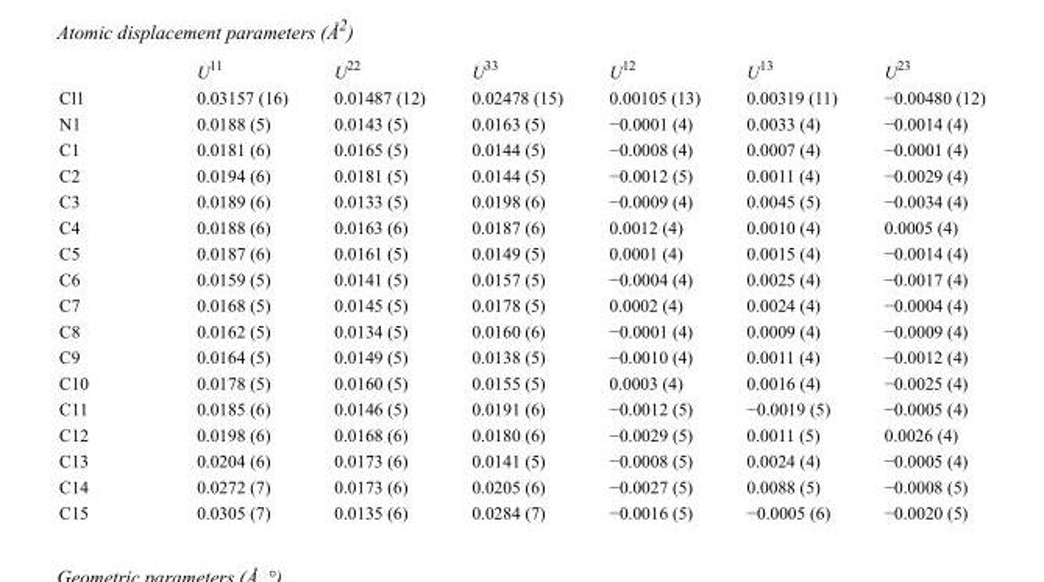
<table><thead><tr><td></td><td>U<sup>11</sup></td><td>U<sup>22</sup></td><td>U<sup>33</sup></td><td>U<sup>12</sup></td><td>U<sup>13</sup></td><td>U<sup>23</sup></td></tr></thead><tbody><tr><td>Cl1</td><td>0.03157 (16)</td><td>0.01487 (12)</td><td>0.02478 (15)</td><td>0.00105 (13)</td><td>0.00319 (11)</td><td>−0.00480 (12)</td></tr><tr><td>N1</td><td>0.0188 (5)</td><td>0.0143 (5)</td><td>0.0163 (5)</td><td>−0.0001 (4)</td><td>0.0033 (4)</td><td>−0.0014 (4)</td></tr><tr><td>C1</td><td>0.0181 (6)</td><td>0.0165 (5)</td><td>0.0144 (5)</td><td>−0.0008 (4)</td><td>0.0007 (4)</td><td>−0.0001 (4)</td></tr><tr><td>C2</td><td>0.0194 (6)</td><td>0.0181 (5)</td><td>0.0144 (5)</td><td>−0.0012 (5)</td><td>0.0011 (4)</td><td>−0.0029 (4)</td></tr><tr><td>C3</td><td>0.0189 (6)</td><td>0.0133 (5)</td><td>0.0198 (6)</td><td>−0.0009 (4)</td><td>0.0045 (5)</td><td>−0.0034 (4)</td></tr><tr><td>C4</td><td>0.0188 (6)</td><td>0.0163 (6)</td><td>0.0187 (6)</td><td>0.0012 (4)</td><td>0.0010 (4)</td><td>0.0005 (4)</td></tr><tr><td>C5</td><td>0.0187 (6)</td><td>0.0161 (5)</td><td>0.0149 (5)</td><td>0.0001 (4)</td><td>0.0015 (4)</td><td>−0.0014 (4)</td></tr><tr><td>C6</td><td>0.0159 (5)</td><td>0.0141 (5)</td><td>0.0157 (5)</td><td>−0.0004 (4)</td><td>0.0025 (4)</td><td>−0.0017 (4)</td></tr><tr><td>C7</td><td>0.0168 (5)</td><td>0.0145 (5)</td><td>0.0178 (5)</td><td>0.0002 (4)</td><td>0.0024 (4)</td><td>−0.0004 (4)</td></tr><tr><td>C8</td><td>0.0162 (5)</td><td>0.0134 (5)</td><td>0.0160 (6)</td><td>−0.0001 (4)</td><td>0.0009 (4)</td><td>−0.0009 (4)</td></tr><tr><td>C9</td><td>0.0164 (5)</td><td>0.0149 (5)</td><td>0.0138 (5)</td><td>−0.0010 (4)</td><td>0.0011 (4)</td><td>−0.0012 (4)</td></tr><tr><td>C10</td><td>0.0178 (5)</td><td>0.0160 (5)</td><td>0.0155 (5)</td><td>0.0003 (4)</td><td>0.0016 (4)</td><td>−0.0025 (4)</td></tr><tr><td>C11</td><td>0.0185 (6)</td><td>0.0146 (5)</td><td>0.0191 (6)</td><td>−0.0012 (5)</td><td>−0.0019 (5)</td><td>−0.0005 (4)</td></tr><tr><td>C12</td><td>0.0198 (6)</td><td>0.0168 (6)</td><td>0.0180 (6)</td><td>−0.0029 (5)</td><td>0.0011 (5)</td><td>0.0026 (4)</td></tr><tr><td>C13</td><td>0.0204 (6)</td><td>0.0173 (6)</td><td>0.0141 (5)</td><td>−0.0008 (5)</td><td>0.0024 (4)</td><td>−0.0005 (4)</td></tr><tr><td>C14</td><td>0.0272 (7)</td><td>0.0173 (6)</td><td>0.0205 (6)</td><td>−0.0027 (5)</td><td>0.0088 (5)</td><td>−0.0008 (5)</td></tr><tr><td>C15</td><td>0.0305 (7)</td><td>0.0135 (6)</td><td>0.0284 (7)</td><td>−0.0016 (5)</td><td>−0.0005 (6)</td><td>−0.0020 (5)</td></tr></tbody></table>